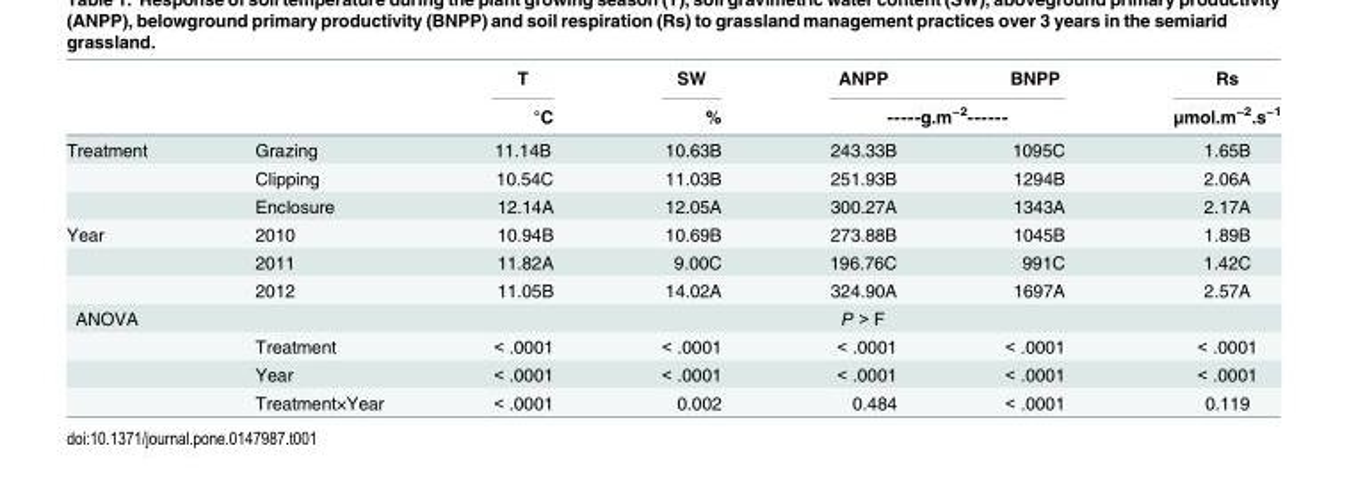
<table><thead><tr><td rowspan="2"></td><td rowspan="2"></td><td rowspan="2">T °C</td><td rowspan="2">SW %</td><td>ANPP</td><td>BNPP</td><td rowspan="2">Rs μmol.m<sup>−2</sup>.s<sup>−1</sup></td></tr><tr><td colspan="2">-----g.m<sup>−2</sup>------</td></tr></thead><tbody><tr><td rowspan="3">Treatment</td><td>Grazing</td><td>11.14B</td><td>10.63B</td><td>243.33B</td><td>1095C</td><td>1.65B</td></tr><tr><td>Clipping</td><td>10.54C</td><td>11.03B</td><td>251.93B</td><td>1294B</td><td>2.06A</td></tr><tr><td>Enclosure</td><td>12.14A</td><td>12.05A</td><td>300.27A</td><td>1343A</td><td>2.17A</td></tr><tr><td rowspan="3">Year</td><td>2010</td><td>10.94B</td><td>10.69B</td><td>273.88B</td><td>1045B</td><td>1.89B</td></tr><tr><td>2011</td><td>11.82A</td><td>9.00C</td><td>196.76C</td><td>991C</td><td>1.42C</td></tr><tr><td>2012</td><td>11.05B</td><td>14.02A</td><td>324.90A</td><td>1697A</td><td>2.57A</td></tr><tr><td rowspan="4">ANOVA</td><td></td><td></td><td></td><td>P &gt; F</td><td></td><td></td></tr><tr><td>Treatment</td><td>&lt; .0001</td><td>&lt; .0001</td><td>&lt; .0001</td><td>&lt; .0001</td><td>&lt; .0001</td></tr><tr><td>Year</td><td>&lt; .0001</td><td>&lt; .0001</td><td>&lt; .0001</td><td>&lt; .0001</td><td>&lt; .0001</td></tr><tr><td>Treatment×Year</td><td>&lt; .0001</td><td>0.002</td><td>0.484</td><td>&lt; .0001</td><td>0.119</td></tr></tbody></table>